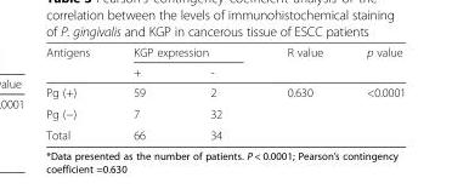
<table><thead><tr><td rowspan="2">Antigens</td><td colspan="2">KGP expression</td><td rowspan="2">R value</td><td rowspan="2">p value</td></tr><tr><td>+</td><td>-</td></tr></thead><tbody><tr><td>Pg (+)</td><td>59</td><td>2</td><td rowspan="3">0.630</td><td rowspan="3">&lt;0.0001</td></tr><tr><td>Pg (−)</td><td>7</td><td>32</td></tr><tr><td>Total</td><td>66</td><td>34</td></tr></tbody></table>